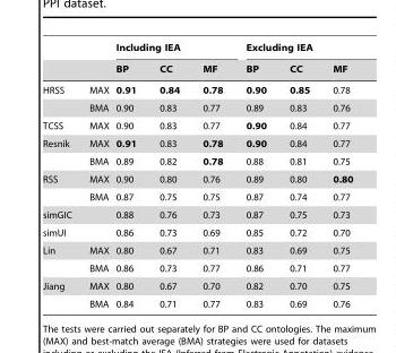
<table><thead><tr><td rowspan="2"></td><td rowspan="2"></td><td colspan="3">Including IEA</td><td colspan="3">Excluding IEA</td></tr><tr><td>BP</td><td>CC</td><td>MF</td><td>BP</td><td>CC</td><td>MF</td></tr></thead><tbody><tr><td rowspan="2">HRSS</td><td>MAX</td><td>0.91</td><td>0.84</td><td>0.78</td><td>0.90</td><td>0.85</td><td>0.78</td></tr><tr><td>BMA</td><td>0.90</td><td>0.83</td><td>0.77</td><td>0.89</td><td>0.83</td><td>0.76</td></tr><tr><td>TCSS</td><td>MAX</td><td>0.90</td><td>0.83</td><td>0.77</td><td>0.90</td><td>0.84</td><td>0.77</td></tr><tr><td rowspan="2">Resnik</td><td>MAX</td><td>0.91</td><td>0.83</td><td>0.78</td><td>0.90</td><td>0.84</td><td>0.77</td></tr><tr><td>BMA</td><td>0.89</td><td>0.82</td><td>0.78</td><td>0.88</td><td>0.81</td><td>0.75</td></tr><tr><td rowspan="2">RSS</td><td>MAX</td><td>0.90</td><td>0.80</td><td>0.76</td><td>0.89</td><td>0.80</td><td>0.80</td></tr><tr><td>BMA</td><td>0.87</td><td>0.75</td><td>0.75</td><td>0.87</td><td>0.74</td><td>0.77</td></tr><tr><td>simGIC</td><td></td><td>0.88</td><td>0.76</td><td>0.73</td><td>0.87</td><td>0.75</td><td>0.73</td></tr><tr><td>simUI</td><td></td><td>0.86</td><td>0.73</td><td>0.69</td><td>0.85</td><td>0.72</td><td>0.70</td></tr><tr><td rowspan="2">Lin</td><td>MAX</td><td>0.80</td><td>0.67</td><td>0.71</td><td>0.83</td><td>0.69</td><td>0.75</td></tr><tr><td>BMA</td><td>0.86</td><td>0.73</td><td>0.77</td><td>0.86</td><td>0.71</td><td>0.77</td></tr><tr><td rowspan="2">Jiang</td><td>MAX</td><td>0.80</td><td>0.67</td><td>0.70</td><td>0.82</td><td>0.70</td><td>0.75</td></tr><tr><td>BMA</td><td>0.84</td><td>0.71</td><td>0.77</td><td>0.83</td><td>0.69</td><td>0.76</td></tr></tbody></table>